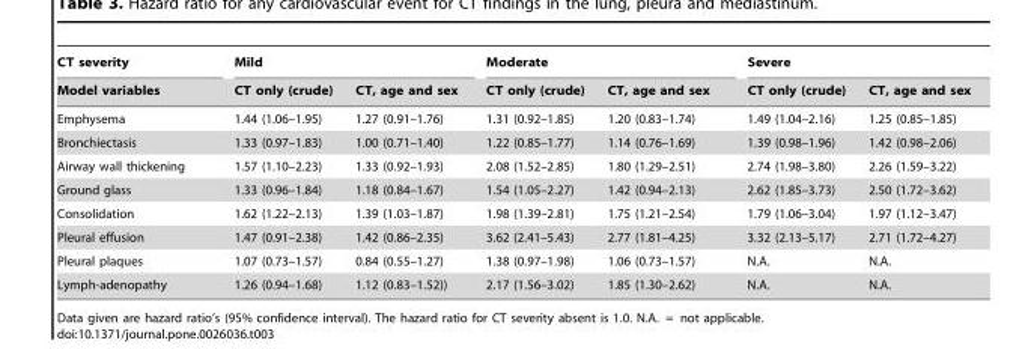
<table><thead><tr><td rowspan="2">CT severity Model variables</td><td colspan="2">Mild</td><td colspan="2">Moderate</td><td colspan="2">Severe</td></tr><tr><td>CT only (crude)</td><td>CT, age and sex</td><td>CT only (crude)</td><td>CT, age and sex</td><td>CT only (crude)</td><td>CT, age and sex</td></tr></thead><tbody><tr><td>Emphysema</td><td>1.44 (1.06–1.95)</td><td>1.27 (0.91–1.76)</td><td>1.31 (0.92–1.85)</td><td>1.20 (0.83–1.74)</td><td>1.49 (1.04–2.16)</td><td>1.25 (0.85–1.85)</td></tr><tr><td>Bronchiectasis</td><td>1.33 (0.97–1.83)</td><td>1.00 (0.71–1.40)</td><td>1.22 (0.85–1.77)</td><td>1.14 (0.76–1.69)</td><td>1.39 (0.98–1.96)</td><td>1.42 (0.98–2.06)</td></tr><tr><td>Airway wall thickening</td><td>1.57 (1.10–2.23)</td><td>1.33 (0.92–1.93)</td><td>2.08 (1.52–2.85)</td><td>1.80 (1.29–2.51)</td><td>2.74 (1.98–3.80)</td><td>2.26 (1.59–3.22)</td></tr><tr><td>Ground glass</td><td>1.33 (0.96–1.84)</td><td>1.18 (0.84–1.67)</td><td>1.54 (1.05–2.27)</td><td>1.42 (0.94–2.13)</td><td>2.62 (1.85–3.73)</td><td>2.50 (1.72–3.62)</td></tr><tr><td>Consolidation</td><td>1.62 (1.22–2.13)</td><td>1.39 (1.03–1.87)</td><td>1.98 (1.39–2.81)</td><td>1.75 (1.21–2.54)</td><td>1.79 (1.06–3.04)</td><td>1.97 (1.12–3.47)</td></tr><tr><td>Pleural effusion</td><td>1.47 (0.91–2.38)</td><td>1.42 (0.86–2.35)</td><td>3.62 (2.41–5.43)</td><td>2.77 (1.81–4.25)</td><td>3.32 (2.13–5.17)</td><td>2.71 (1.72–4.27)</td></tr><tr><td>Pleural plaques</td><td>1.07 (0.73–1.57)</td><td>0.84 (0.55–1.27)</td><td>1.38 (0.97–1.98)</td><td>1.06 (0.73–1.57)</td><td>N.A.</td><td>N.A.</td></tr><tr><td>Lymph-adenopathy</td><td>1.26 (0.94–1.68)</td><td>1.12 (0.83–1.52))</td><td>2.17 (1.56–3.02)</td><td>1.85 (1.30–2.62)</td><td>N.A.</td><td>N.A.</td></tr></tbody></table>